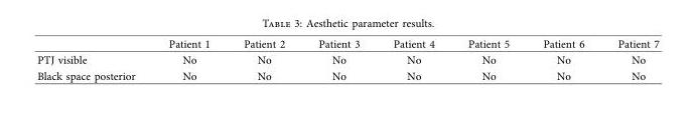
<table><thead><tr><td></td><td>Patient 1</td><td>Patient 2</td><td>Patient 3</td><td>Patient 4</td><td>Patient 5</td><td>Patient 6</td><td>Patient 7</td></tr></thead><tbody><tr><td>PTJ visible</td><td>No</td><td>No</td><td>No</td><td>No</td><td>No</td><td>No</td><td>No</td></tr><tr><td>Black space posterior</td><td>No</td><td>No</td><td>No</td><td>No</td><td>No</td><td>No</td><td>No</td></tr></tbody></table>